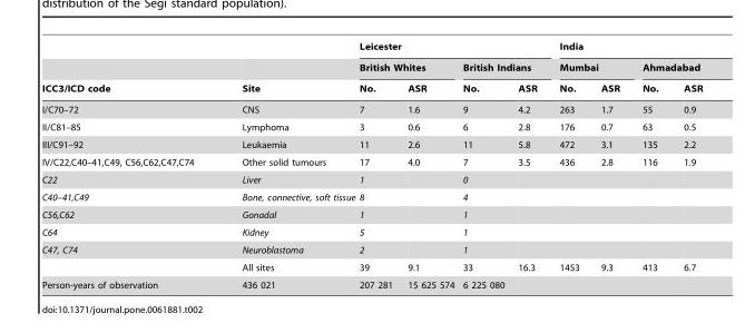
<table><thead><tr><td rowspan="3">ICC3/ICD code</td><td rowspan="3">Site</td><td colspan="4">Leicester</td><td colspan="4">India</td></tr><tr><td colspan="2">British Whites</td><td colspan="2">British Indians</td><td colspan="2">Mumbai</td><td colspan="2">Ahmadabad</td></tr><tr><td>No.</td><td>ASR</td><td>No.</td><td>ASR</td><td>No.</td><td>ASR</td><td>No.</td><td>ASR</td></tr></thead><tbody><tr><td>I/C70–72</td><td>CNS</td><td>7</td><td>1.6</td><td>9</td><td>4.2</td><td>263</td><td>1.7</td><td>55</td><td>0.9</td></tr><tr><td>II/C81–85</td><td>Lymphoma</td><td>3</td><td>0.6</td><td>6</td><td>2.8</td><td>176</td><td>0.7</td><td>63</td><td>0.5</td></tr><tr><td>III/C91–92</td><td>Leukaemia</td><td>11</td><td>2.6</td><td>11</td><td>5.8</td><td>472</td><td>3.1</td><td>135</td><td>2.2</td></tr><tr><td>IV/C22,C40–41,C49, C56,C62,C47,C74</td><td>Other solid tumours</td><td>17</td><td>4.0</td><td>7</td><td>3.5</td><td>436</td><td>2.8</td><td>116</td><td>1.9</td></tr><tr><td>C22</td><td>Liver</td><td>1</td><td></td><td>0</td><td></td><td></td><td></td><td></td><td></td></tr><tr><td>C40–41,C49</td><td>Bone, connective, soft tissue</td><td>8</td><td></td><td>4</td><td></td><td></td><td></td><td></td><td></td></tr><tr><td>C56,C62</td><td>Gonadal</td><td>1</td><td></td><td>1</td><td></td><td></td><td></td><td></td><td></td></tr><tr><td>C64</td><td>Kidney</td><td>5</td><td></td><td>1</td><td></td><td></td><td></td><td></td><td></td></tr><tr><td rowspan="2">C47, C74</td><td>Neuroblastoma</td><td>2</td><td></td><td>1</td><td></td><td></td><td></td><td></td><td></td></tr><tr><td>All sites</td><td>39</td><td>9.1</td><td>33</td><td>16.3</td><td>1453</td><td>9.3</td><td>413</td><td>6.7</td></tr><tr><td>Person-years of observation</td><td>436 021</td><td>207 281</td><td>15 625 574</td><td>6 225 080</td><td></td><td></td><td></td><td></td><td></td></tr></tbody></table>